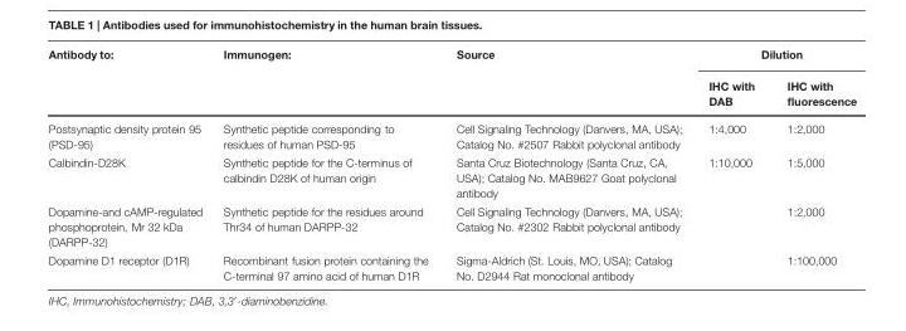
<table><thead><tr><td rowspan="2">Antibody to:</td><td rowspan="2">Immunogen:</td><td rowspan="2">Source</td><td colspan="2">Dilution</td></tr><tr><td>IHC with DAB</td><td>IHC with fluorescence</td></tr></thead><tbody><tr><td>Postsynaptic density protein 95 (PSD-95)</td><td>Synthetic peptide corresponding to residues of human PSD-95</td><td>Cell Signaling Technology (Danvers, MA, USA); Catalog No. #2507 Rabbit polyclonal antibody</td><td>1:4,000</td><td>1:2,000</td></tr><tr><td>Calbindin-D28K</td><td>Synthetic peptide for the C-terminus of calbindin D28K of human origin</td><td>Santa Cruz Biotechnology (Santa Cruz, CA, USA); Catalog No. MAB9627 Goat polyclonal antibody</td><td>1:10,000</td><td>1:5,000</td></tr><tr><td>Dopamine-and cAMP-regulated phosphoprotein, Mr 32 kDa (DARPP-32)</td><td>Synthetic peptide for the residues around Thr34 of human DARPP-32</td><td>Cell Signaling Technology (Danvers, MA, USA); Catalog No. #2302 Rabbit polyclonal antibody</td><td></td><td>1:2,000</td></tr><tr><td>Dopamine D1 receptor (D1R)</td><td>Recombinant fusion protein containing the C-terminal 97 amino acid of human D1R</td><td>Sigma-Aldrich (St. Louis, MO, USA); Catalog No. D2944 Rat monoclonal antibody</td><td></td><td>1:100,000</td></tr></tbody></table>